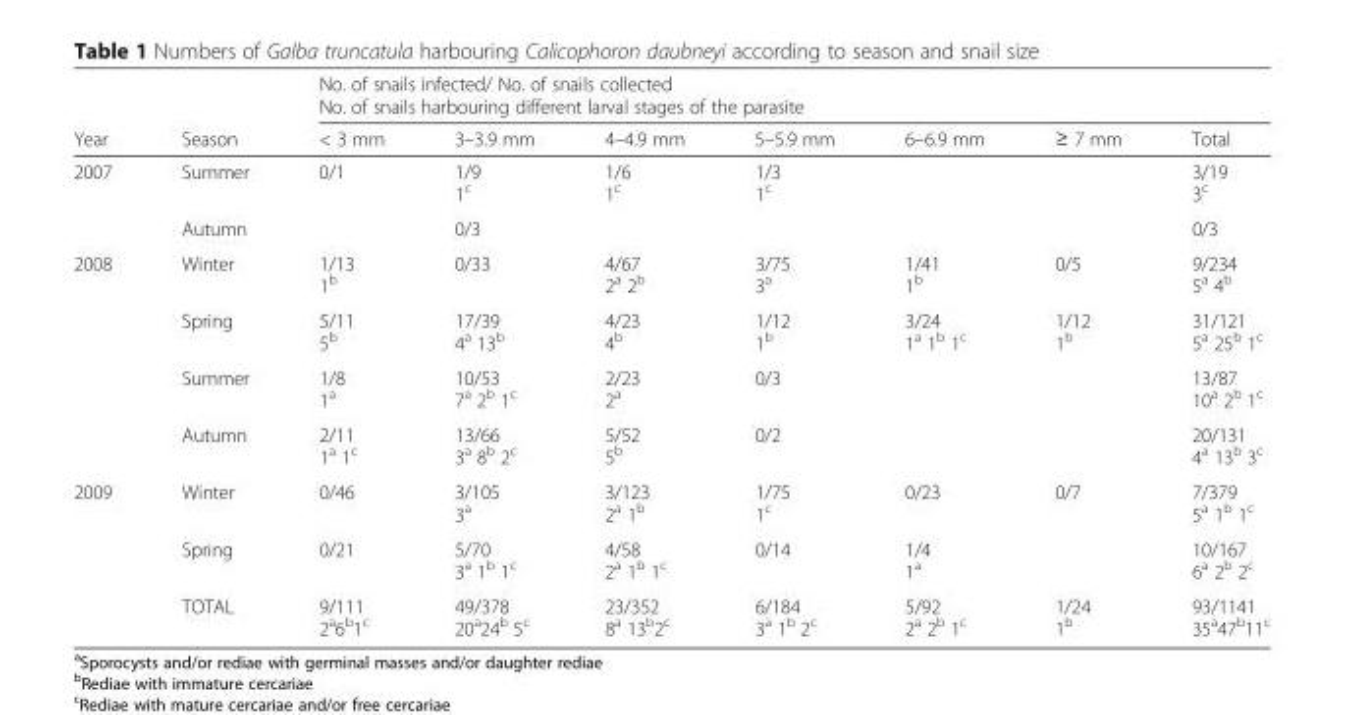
<table><thead><tr><td rowspan="2">Year</td><td rowspan="2">Season</td><td colspan="7">No. of snails infected/ No. of snails collected No. of snails harbouring different larval stages of the parasite</td></tr><tr><td>&lt; 3 mm</td><td>3–3.9 mm</td><td>4–4.9 mm</td><td>5–5.9 mm</td><td>6–6.9 mm</td><td>≥ 7 mm</td><td>Total</td></tr></thead><tbody><tr><td rowspan="2">2007</td><td>Summer</td><td>0/1</td><td>1/9 1<sup>c</sup></td><td>1/6 1<sup>c</sup></td><td>1/3 1<sup>c</sup></td><td></td><td></td><td>3/19 3<sup>c</sup></td></tr><tr><td>Autumn</td><td></td><td>0/3</td><td></td><td></td><td></td><td></td><td>0/3</td></tr><tr><td rowspan="4">2008</td><td>Winter</td><td>1/13 1<sup>b</sup></td><td>0/33</td><td>4/67 2<sup>a</sup> 2<sup>b</sup></td><td>3/75 3<sup>a</sup></td><td>1/41 1<sup>b</sup></td><td>0/5</td><td>9/234 5<sup>a</sup> 4<sup>b</sup></td></tr><tr><td>Spring</td><td>5/11 5<sup>b</sup></td><td>17/39 4<sup>a</sup> 13<sup>b</sup></td><td>4/23 4<sup>b</sup></td><td>1/12 1<sup>b</sup></td><td>3/24 1<sup>a</sup> 1<sup>b</sup> 1<sup>c</sup></td><td>1/12 1<sup>b</sup></td><td>31/121 5<sup>a</sup> 25<sup>b</sup> 1<sup>c</sup></td></tr><tr><td>Summer</td><td>1/8 1<sup>a</sup></td><td>10/53 7<sup>a</sup> 2<sup>b</sup> 1<sup>c</sup></td><td>2/23 2<sup>a</sup></td><td>0/3</td><td></td><td></td><td>13/87 10<sup>a</sup> 2<sup>b</sup> 1<sup>c</sup></td></tr><tr><td>Autumn</td><td>2/11 1<sup>a</sup> 1<sup>c</sup></td><td>13/66 3<sup>a</sup> 8<sup>b</sup> 2<sup>c</sup></td><td>5/52 5<sup>b</sup></td><td>0/2</td><td></td><td></td><td>20/131 4<sup>a</sup> 13<sup>b</sup> 3<sup>c</sup></td></tr><tr><td rowspan="3">2009</td><td>Winter</td><td>0/46</td><td>3/105 3<sup>a</sup></td><td>3/123 2<sup>a</sup> 1<sup>b</sup></td><td>1/75 1<sup>c</sup></td><td>0/23</td><td>0/7</td><td>7/379 5<sup>a</sup> 1<sup>b</sup> 1<sup>c</sup></td></tr><tr><td>Spring</td><td>0/21</td><td>5/70 3<sup>a</sup> 1<sup>b</sup> 1<sup>c</sup></td><td>4/58 2<sup>a</sup> 1<sup>b</sup> 1<sup>c</sup></td><td>0/14</td><td>1/4 1<sup>a</sup></td><td></td><td>10/167 6<sup>a</sup> 2<sup>b</sup> 2<sup>c</sup></td></tr><tr><td>TOTAL</td><td>9/111 2<sup>a</sup>6<sup>b</sup>1<sup>c</sup></td><td>49/378 20<sup>a</sup>24<sup>b</sup> 5<sup>c</sup></td><td>23/352 8<sup>a</sup> 13<sup>b</sup>2<sup>c</sup></td><td>6/184 3<sup>a</sup> 1<sup>b</sup> 2<sup>c</sup></td><td>5/92 2<sup>a</sup> 2<sup>b</sup> 1<sup>c</sup></td><td>1/24 1<sup>b</sup></td><td>93/1141 35<sup>a</sup>47<sup>b</sup>11<sup>c</sup></td></tr></tbody></table>